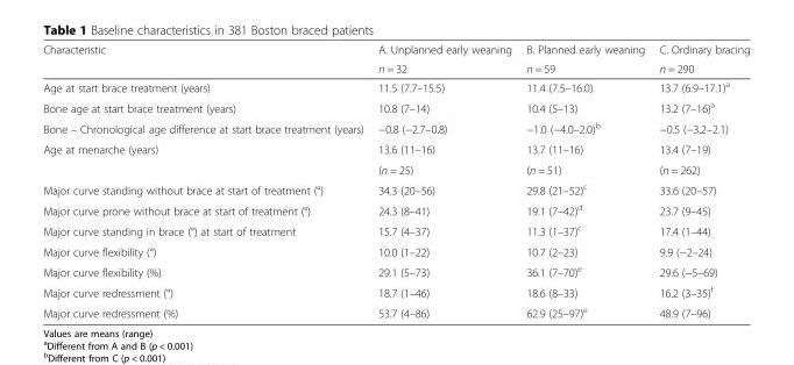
<table><thead><tr><td rowspan="2">Characteristic</td><td rowspan="2">A. Unplanned early weaning n = 32</td><td rowspan="2">B. Planned early weaning n = 59</td><td rowspan="2">C. Ordinary bracing n = 290</td></tr><tr></tr></thead><tbody><tr><td>Age at start brace treatment (years)</td><td>11.5 (7.7–15.5)</td><td>11.4 (7.5–16.0)</td><td>13.7 (6.9–17.1)<sup>a</sup></td></tr><tr><td>Bone age at start brace treatment (years)</td><td>10.8 (7–14)</td><td>10.4 (5–13)</td><td>13.2 (7–16)<sup>a</sup></td></tr><tr><td>Bone – Chronological age difference at start brace treatment (years)</td><td>−0.8 (−2.7–0.8)</td><td>−1.0 (−4.0–2.0)<sup>b</sup></td><td>−0.5 (−3.2–2.1)</td></tr><tr><td rowspan="2">Age at menarche (years)</td><td>13.6 (11–16)</td><td>13.7 (11–16)</td><td>13.4 (7–19)</td></tr><tr><td>(n = 25)</td><td>(n = 51)</td><td>(n = 262)</td></tr><tr><td>Major curve standing without brace at start of treatment (°)</td><td>34.3 (20–56)</td><td>29.8 (21–52)<sup>c</sup></td><td>33.6 (20–57)</td></tr><tr><td>Major curve prone without brace at start of treatment (°)</td><td>24.3 (8–41)</td><td>19.1 (7–42)<sup>d</sup></td><td>23.7 (9–45)</td></tr><tr><td>Major curve standing in brace (°) at start of treatment</td><td>15.7 (4–37)</td><td>11.3 (1–37)<sup>c</sup></td><td>17.4 (1–44)</td></tr><tr><td>Major curve flexibility (°)</td><td>10.0 (1–22)</td><td>10.7 (2–23)</td><td>9.9 (−2–24)</td></tr><tr><td>Major curve flexibility (%)</td><td>29.1 (5–73)</td><td>36.1 (7–70)<sup>e</sup></td><td>29.6 (−5–69)</td></tr><tr><td>Major curve redressment (°)</td><td>18.7 (1–46)</td><td>18.6 (8–33)</td><td>16.2 (3–35)<sup>f</sup></td></tr><tr><td>Major curve redressment (%)</td><td>53.7 (4–86)</td><td>62.9 (25–97)<sup>e</sup></td><td>48.9 (7–96)</td></tr></tbody></table>